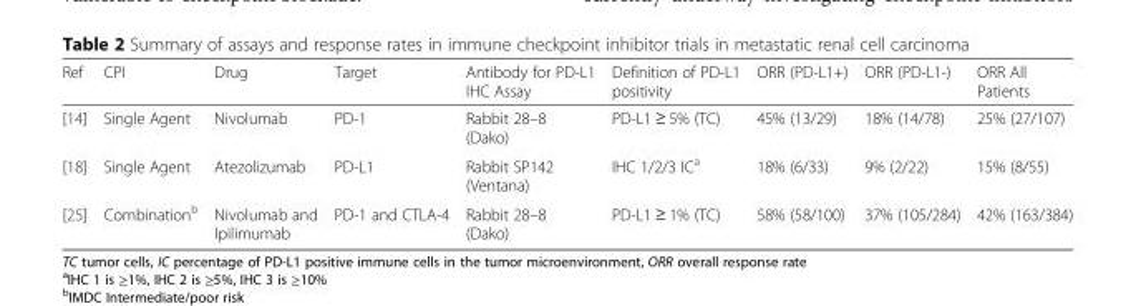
<table><thead><tr><td>Ref</td><td>CPI</td><td>Drug</td><td>Target</td><td>Antibody for PD-L1 IHC Assay</td><td>Definition of PD-L1 positivity</td><td>ORR (PD-L1+)</td><td>ORR (PD-L1-)</td><td>ORR All Patients</td></tr></thead><tbody><tr><td>[14]</td><td>Single Agent</td><td>Nivolumab</td><td>PD-1</td><td>Rabbit 28–8 (Dako)</td><td>PD-L1 ≥ 5% (TC)</td><td>45% (13/29)</td><td>18% (14/78)</td><td>25% (27/107)</td></tr><tr><td>[18]</td><td>Single Agent</td><td>Atezolizumab</td><td>PD-L1</td><td>Rabbit SP142 (Ventana)</td><td>IHC 1/2/3 IC<sup>a</sup></td><td>18% (6/33)</td><td>9% (2/22)</td><td>15% (8/55)</td></tr><tr><td>[25]</td><td>Combination<sup>b</sup></td><td>Nivolumab and Ipilimumab</td><td>PD-1 and CTLA-4</td><td>Rabbit 28–8 (Dako)</td><td>PD-L1 ≥ 1% (TC)</td><td>58% (58/100)</td><td>37% (105/284)</td><td>42% (163/384)</td></tr></tbody></table>